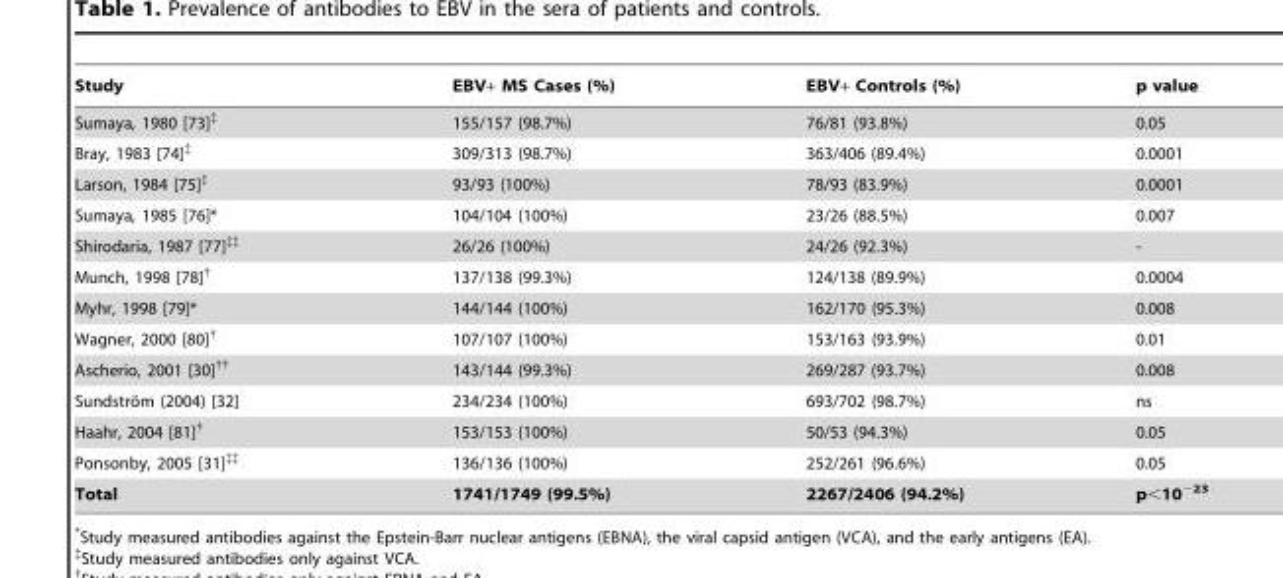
<table><thead><tr><td>Study</td><td>EBV+ MS Cases (%)</td><td>EBV+ Controls (%)</td><td>p value</td></tr></thead><tbody><tr><td>Sumaya, 1980 [73]‡</td><td>155/157 (98.7%)</td><td>76/81 (93.8%)</td><td>0.05</td></tr><tr><td>Bray, 1983 [74]‡</td><td>309/313 (98.7%)</td><td>363/406 (89.4%)</td><td>0.0001</td></tr><tr><td>Larson, 1984 [75]‡</td><td>93/93 (100%)</td><td>78/93 (83.9%)</td><td>0.0001</td></tr><tr><td>Sumaya, 1985 [76]*</td><td>104/104 (100%)</td><td>23/26 (88.5%)</td><td>0.007</td></tr><tr><td>Shirodaria, 1987 [77]‡‡</td><td>26/26 (100%)</td><td>24/26 (92.3%)</td><td>-</td></tr><tr><td>Munch, 1998 [78]†</td><td>137/138 (99.3%)</td><td>124/138 (89.9%)</td><td>0.0004</td></tr><tr><td>Myhr, 1998 [79]*</td><td>144/144 (100%)</td><td>162/170 (95.3%)</td><td>0.008</td></tr><tr><td>Wagner, 2000 [80]†</td><td>107/107 (100%)</td><td>153/163 (93.9%)</td><td>0.01</td></tr><tr><td>Ascherio, 2001 [30]††</td><td>143/144 (99.3%)</td><td>269/287 (93.7%)</td><td>0.008</td></tr><tr><td>Sundstro¨m (2004) [32]</td><td>234/234 (100%)</td><td>693/702 (98.7%)</td><td>ns</td></tr><tr><td>Haahr, 2004 [81]†</td><td>153/153 (100%)</td><td>50/53 (94.3%)</td><td>0.05</td></tr><tr><td>Ponsonby, 2005 [31]‡‡</td><td>136/136 (100%)</td><td>252/261 (96.6%)</td><td>0.05</td></tr><tr><td>Total</td><td>1741/1749 (99.5%)</td><td>2267/2406 (94.2%)</td><td>p&lt;10<sup>−23</sup></td></tr></tbody></table>